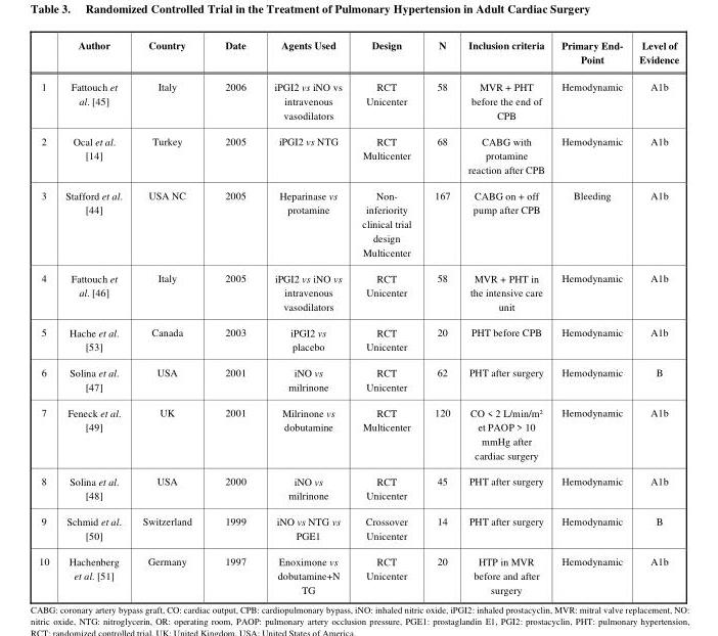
<table><thead><tr><td></td><td>Author</td><td>Country</td><td>Date</td><td>Agents Used</td><td>Design</td><td>N</td><td>Inclusion criteria</td><td>Primary End- Point</td><td>Level of Evidence</td></tr></thead><tbody><tr><td>1</td><td>Fattouch et al. [45]</td><td>Italy</td><td>2006</td><td>iPGI2 vs iNO vs intravenous vasodilators</td><td>RCT Unicenter</td><td>58</td><td>MVR + PHT before the end of CPB</td><td>Hemodynamic</td><td>A1b</td></tr><tr><td>2</td><td>Ocal et al. [14]</td><td>Turkey</td><td>2005</td><td>iPGI2 vs NTG</td><td>RCT Multicenter</td><td>68</td><td>CABG with protamine reaction after CPB</td><td>Hemodynamic</td><td>A1b</td></tr><tr><td>3</td><td>Stafford et al. [44]</td><td>USA NC</td><td>2005</td><td>Heparinase vs protamine</td><td>Non- inferiority clinical trial design Multicenter</td><td>167</td><td>CABG on + off pump after CPB</td><td>Bleeding</td><td>A1b</td></tr><tr><td>4</td><td>Fattouch et al. [46]</td><td>Italy</td><td>2005</td><td>iPGI2 vs iNO vs intravenous vasodilators</td><td>RCT Unicenter</td><td>58</td><td>MVR + PHT in the intensive care unit</td><td>Hemodynamic</td><td>A1b</td></tr><tr><td>5</td><td>Hache et al. [53]</td><td>Canada</td><td>2003</td><td>iPGI2 vs placebo</td><td>RCT Unicenter</td><td>20</td><td>PHT before CPB</td><td>Hemodynamic</td><td>A1b</td></tr><tr><td>6</td><td>Solina et al. [47]</td><td>USA</td><td>2001</td><td>iNO vs milrinone</td><td>RCT Unicenter</td><td>62</td><td>PHT after surgery</td><td>Hemodynamic</td><td>B</td></tr><tr><td>7</td><td>Feneck et al. [49]</td><td>UK</td><td>2001</td><td>Milrinone vs dobutamine</td><td>RCT Multicenter</td><td>120</td><td>CO &lt; 2 L/min/m² et PAOP &gt; 10 mmHg after cardiac surgery</td><td>Hemodynamic</td><td>A1b</td></tr><tr><td>8</td><td>Solina et al. [48]</td><td>USA</td><td>2000</td><td>iNO vs milrinone</td><td>RCT Unicenter</td><td>45</td><td>PHT after surgery</td><td>Hemodynamic</td><td>A1b</td></tr><tr><td>9</td><td>Schmid et al. [50]</td><td>Switzerland</td><td>1999</td><td>iNO vs NTG vs PGE1</td><td>Crossover Unicenter</td><td>14</td><td>PHT after surgery</td><td>Hemodynamic</td><td>B</td></tr><tr><td>10</td><td>Hachenberg et al. [51]</td><td>Germany</td><td>1997</td><td>Enoximone vs dobutamine+N TG</td><td>RCT Unicenter</td><td>20</td><td>HTP in MVR before and after surgery</td><td>Hemodynamic</td><td>A1b</td></tr></tbody></table>